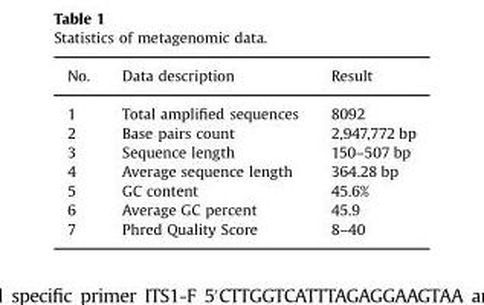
<table><thead><tr><td>No.</td><td>Data description</td><td>Result</td></tr></thead><tbody><tr><td>1</td><td>Total amplified sequences</td><td>8092</td></tr><tr><td>2</td><td>Base pairs count</td><td>2,947,772 bp</td></tr><tr><td>3</td><td>Sequence length</td><td>150–507 bp</td></tr><tr><td>4</td><td>Average sequence length</td><td>364.28 bp</td></tr><tr><td>5</td><td>GC content</td><td>45.6%</td></tr><tr><td>6</td><td>Average GC percent</td><td>45.9</td></tr><tr><td>7</td><td>Phred Quality Score</td><td>8–40</td></tr></tbody></table>